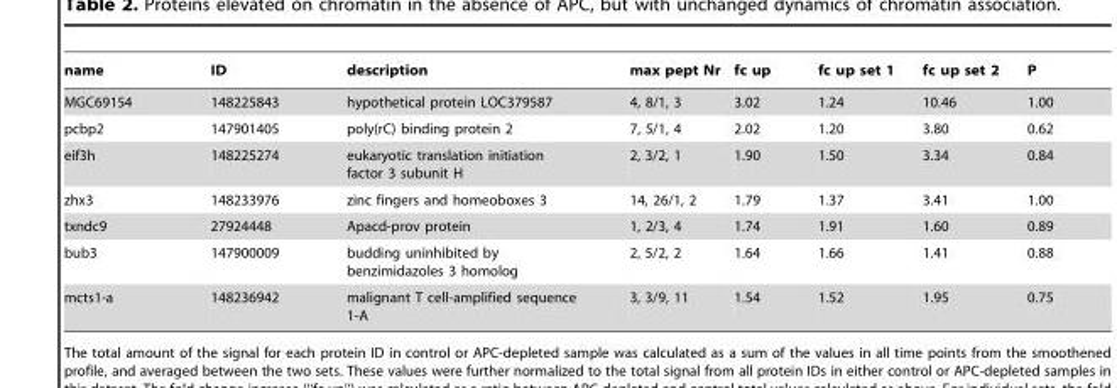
<table><thead><tr><td>name</td><td>ID</td><td>description</td><td>max pept Nr</td><td>fc up</td><td>fc up set 1</td><td>fc up set 2</td><td>P</td></tr></thead><tbody><tr><td>MGC69154</td><td>148225843</td><td>hypothetical protein LOC379587</td><td>4, 8/1, 3</td><td>3.02</td><td>1.24</td><td>10.46</td><td>1.00</td></tr><tr><td>pcbp2</td><td>147901405</td><td>poly(rC) binding protein 2</td><td>7, 5/1, 4</td><td>2.02</td><td>1.20</td><td>3.80</td><td>0.62</td></tr><tr><td>eif3h</td><td>148225274</td><td>eukaryotic translation initiation factor 3 subunit H</td><td>2, 3/2, 1</td><td>1.90</td><td>1.50</td><td>3.34</td><td>0.84</td></tr><tr><td>zhx3</td><td>148233976</td><td>zinc fingers and homeoboxes 3</td><td>14, 26/1, 2</td><td>1.79</td><td>1.37</td><td>3.41</td><td>1.00</td></tr><tr><td>txndc9</td><td>27924448</td><td>Apacd-prov protein</td><td>1, 2/3, 4</td><td>1.74</td><td>1.91</td><td>1.60</td><td>0.89</td></tr><tr><td>bub3</td><td>147900009</td><td>budding uninhibited by benzimidazoles 3 homolog</td><td>2, 5/2, 2</td><td>1.64</td><td>1.66</td><td>1.41</td><td>0.88</td></tr><tr><td>mcts1-a</td><td>148236942</td><td>malignant T cell-amplified sequence 1-A</td><td>3, 3/9, 11</td><td>1.54</td><td>1.52</td><td>1.95</td><td>0.75</td></tr></tbody></table>